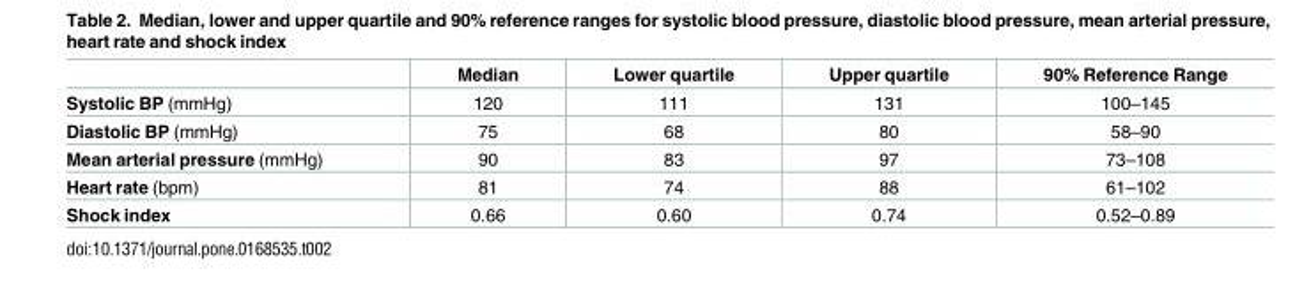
<table><thead><tr><td></td><td>Median</td><td>Lower quartile</td><td>Upper quartile</td><td>90% Reference Range</td></tr></thead><tbody><tr><td>Systolic BP (mmHg)</td><td>120</td><td>111</td><td>131</td><td>100–145</td></tr><tr><td>Diastolic BP (mmHg)</td><td>75</td><td>68</td><td>80</td><td>58–90</td></tr><tr><td>Mean arterial pressure (mmHg)</td><td>90</td><td>83</td><td>97</td><td>73–108</td></tr><tr><td>Heart rate (bpm)</td><td>81</td><td>74</td><td>88</td><td>61–102</td></tr><tr><td>Shock index</td><td>0.66</td><td>0.60</td><td>0.74</td><td>0.52–0.89</td></tr></tbody></table>